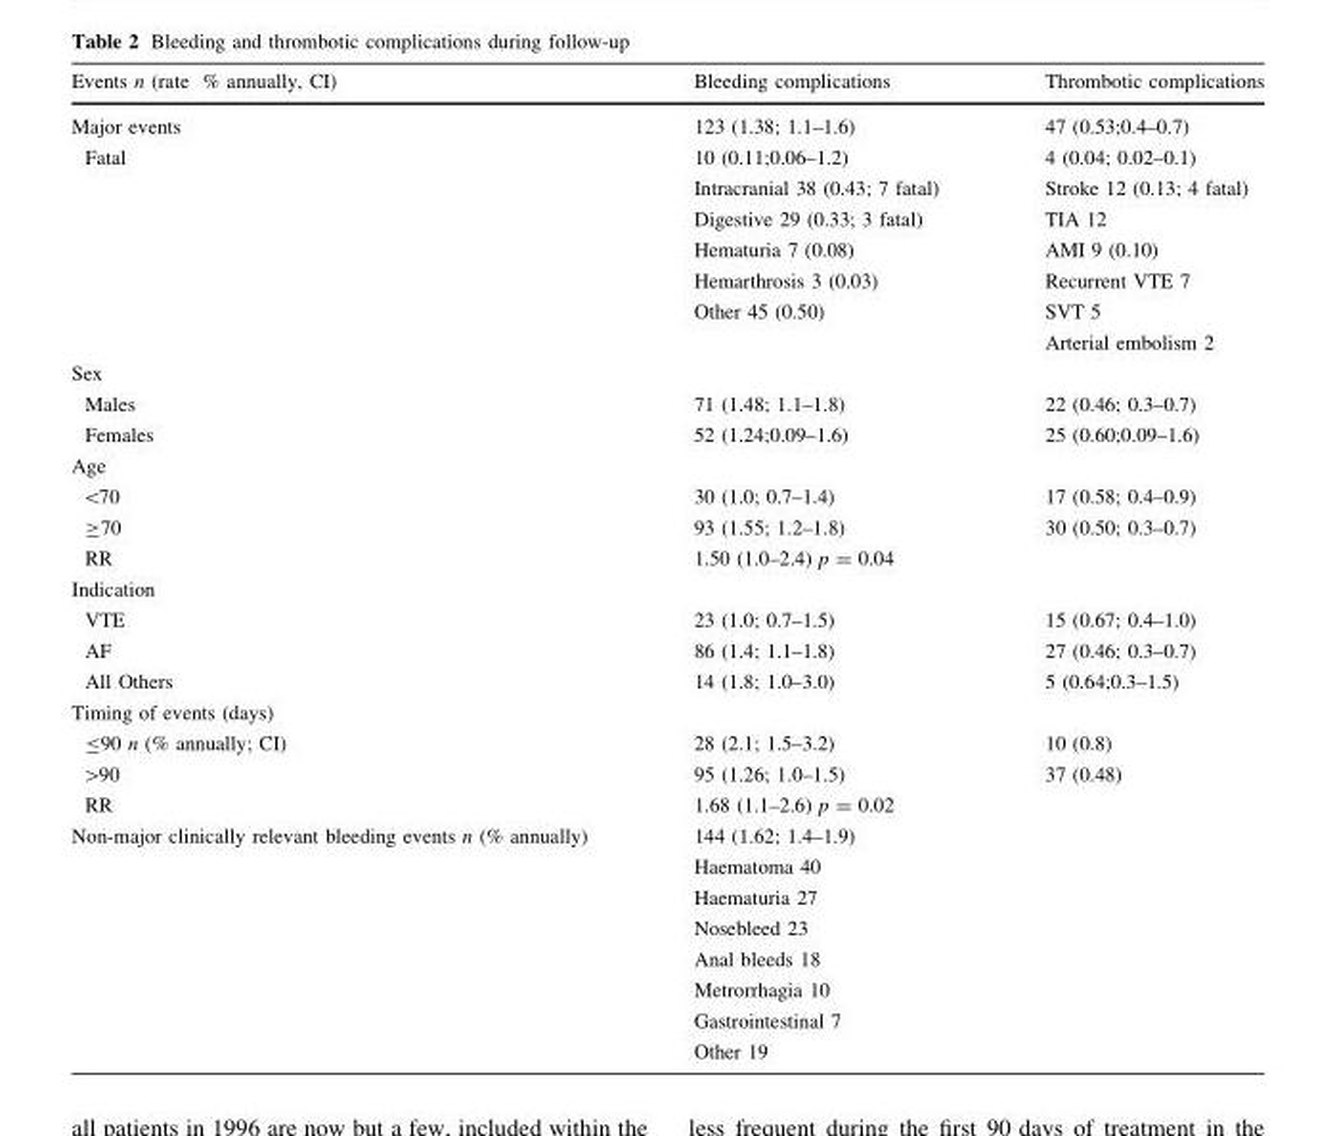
<table><thead><tr><td>Events n (rate % annually, CI)</td><td>Bleeding complications</td><td>Thrombotic complications</td></tr></thead><tbody><tr><td>Major events</td><td>123 (1.38; 1.1–1.6)</td><td>47 (0.53;0.4–0.7)</td></tr><tr><td rowspan="7">Fatal</td><td>10 (0.11;0.06–1.2)</td><td>4 (0.04; 0.02–0.1)</td></tr><tr><td>Intracranial 38 (0.43; 7 fatal)</td><td>Stroke 12 (0.13; 4 fatal)</td></tr><tr><td>Digestive 29 (0.33; 3 fatal)</td><td>TIA 12</td></tr><tr><td>Hematuria 7 (0.08)</td><td>AMI 9 (0.10)</td></tr><tr><td>Hemarthrosis 3 (0.03)</td><td>Recurrent VTE 7</td></tr><tr><td>Other 45 (0.50)</td><td>SVT 5</td></tr><tr><td></td><td>Arterial embolism 2</td></tr><tr><td colspan="3">Sex</td></tr><tr><td>Males</td><td>71 (1.48; 1.1–1.8)</td><td>22 (0.46; 0.3–0.7)</td></tr><tr><td>Females</td><td>52 (1.24;0.09–1.6)</td><td>25 (0.60;0.09–1.6)</td></tr><tr><td colspan="3">Age</td></tr><tr><td>&lt;70</td><td>30 (1.0; 0.7–1.4)</td><td>17 (0.58; 0.4–0.9)</td></tr><tr><td>≥70</td><td>93 (1.55; 1.2–1.8)</td><td>30 (0.50; 0.3–0.7)</td></tr><tr><td>RR</td><td>1.50 (1.0–2.4) p = 0.04</td><td></td></tr><tr><td colspan="3">Indication</td></tr><tr><td>VTE</td><td>23 (1.0; 0.7–1.5)</td><td>15 (0.67; 0.4–1.0)</td></tr><tr><td>AF</td><td>86 (1.4; 1.1–1.8)</td><td>27 (0.46; 0.3–0.7)</td></tr><tr><td>All Others</td><td>14 (1.8; 1.0–3.0)</td><td>5 (0.64;0.3–1.5)</td></tr><tr><td colspan="3">Timing of events (days)</td></tr><tr><td>≤90 n (% annually; CI)</td><td>28 (2.1; 1.5–3.2)</td><td>10 (0.8)</td></tr><tr><td>&gt;90</td><td>95 (1.26; 1.0–1.5)</td><td>37 (0.48)</td></tr><tr><td>RR</td><td>1.68 (1.1–2.6) p = 0.02</td><td></td></tr><tr><td rowspan="8">Non-major clinically relevant bleeding events n (% annually)</td><td>144 (1.62; 1.4–1.9)</td><td></td></tr><tr><td>Haematoma 40</td><td></td></tr><tr><td>Haematuria 27</td><td></td></tr><tr><td>Nosebleed 23</td><td></td></tr><tr><td>Anal bleeds 18</td><td></td></tr><tr><td>Metrorrhagia 10</td><td></td></tr><tr><td>Gastrointestinal 7</td><td></td></tr><tr><td>Other 19</td><td></td></tr></tbody></table>